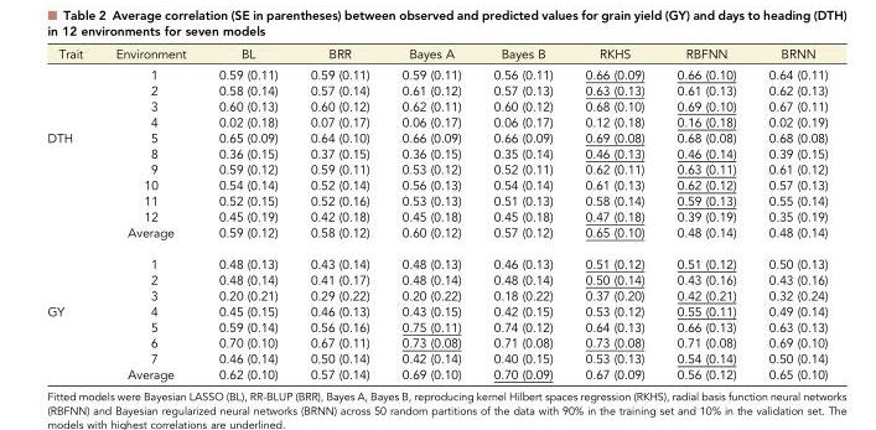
<table><thead><tr><td>Trait</td><td>Environment</td><td>BL</td><td>BRR</td><td>Bayes A</td><td>Bayes B</td><td>RKHS</td><td>RBFNN</td><td>BRNN</td></tr></thead><tbody><tr><td></td><td>1</td><td>0.59 (0.11)</td><td>0.59 (0.11)</td><td>0.59 (0.11)</td><td>0.56 (0.11)</td><td>0.66 (0.09)</td><td>0.66 (0.10)</td><td>0.64 (0.11)</td></tr><tr><td></td><td>2</td><td>0.58 (0.14)</td><td>0.57 (0.14)</td><td>0.61 (0.12)</td><td>0.57 (0.13)</td><td>0.63 (0.13)</td><td>0.61 (0.13)</td><td>0.62 (0.13)</td></tr><tr><td></td><td>3</td><td>0.60 (0.13)</td><td>0.60 (0.12)</td><td>0.62 (0.11)</td><td>0.60 (0.12)</td><td>0.68 (0.10)</td><td>0.69 (0.10)</td><td>0.67 (0.11)</td></tr><tr><td></td><td>4</td><td>0.02 (0.18)</td><td>0.07 (0.17)</td><td>0.06 (0.17)</td><td>0.06 (0.17)</td><td>0.12 (0.18)</td><td>0.16 (0.18)</td><td>0.02 (0.19)</td></tr><tr><td rowspan="10">DTH</td><td>5</td><td>0.65 (0.09)</td><td>0.64 (0.10)</td><td>0.66 (0.09)</td><td>0.66 (0.09)</td><td>0.69 (0.08)</td><td>0.68 (0.08)</td><td>0.68 (0.08)</td></tr><tr><td>8</td><td>0.36 (0.15)</td><td>0.37 (0.15)</td><td>0.36 (0.15)</td><td>0.35 (0.14)</td><td>0.46 (0.13)</td><td>0.46 (0.14)</td><td>0.39 (0.15)</td></tr><tr><td>9</td><td>0.59 (0.12)</td><td>0.59 (0.11)</td><td>0.53 (0.12)</td><td>0.52 (0.11)</td><td>0.62 (0.11)</td><td>0.63 (0.11)</td><td>0.61 (0.12)</td></tr><tr><td>10</td><td>0.54 (0.14)</td><td>0.52 (0.14)</td><td>0.56 (0.13)</td><td>0.54 (0.14)</td><td>0.61 (0.13)</td><td>0.62 (0.12)</td><td>0.57 (0.13)</td></tr><tr><td>11</td><td>0.52 (0.15)</td><td>0.52 (0.16)</td><td>0.53 (0.13)</td><td>0.51 (0.13)</td><td>0.58 (0.14)</td><td>0.59 (0.13)</td><td>0.55 (0.14)</td></tr><tr><td>12</td><td>0.45 (0.19)</td><td>0.42 (0.18)</td><td>0.45 (0.18)</td><td>0.45 (0.18)</td><td>0.47 (0.18)</td><td>0.39 (0.19)</td><td>0.35 (0.19)</td></tr><tr><td>Average</td><td>0.59 (0.12)</td><td>0.58 (0.12)</td><td>0.60 (0.12)</td><td>0.57 (0.12)</td><td>0.65 (0.10)</td><td>0.48 (0.14)</td><td>0.48 (0.14)</td></tr><tr><td>1</td><td>0.48 (0.13)</td><td>0.43 (0.14)</td><td>0.48 (0.13)</td><td>0.46 (0.13)</td><td>0.51 (0.12)</td><td>0.51 (0.12)</td><td>0.50 (0.13)</td></tr><tr><td>2</td><td>0.48 (0.14)</td><td>0.41 (0.17)</td><td>0.48 (0.14)</td><td>0.48 (0.14)</td><td>0.50 (0.14)</td><td>0.43 (0.16)</td><td>0.43 (0.16)</td></tr><tr><td>3</td><td>0.20 (0.21)</td><td>0.29 (0.22)</td><td>0.20 (0.22)</td><td>0.18 (0.22)</td><td>0.37 (0.20)</td><td>0.42 (0.21)</td><td>0.32 (0.24)</td></tr><tr><td rowspan="5">GY</td><td>4</td><td>0.45 (0.15)</td><td>0.46 (0.13)</td><td>0.43 (0.15)</td><td>0.42 (0.15)</td><td>0.53 (0.12)</td><td>0.55 (0.11)</td><td>0.49 (0.14)</td></tr><tr><td>5</td><td>0.59 (0.14)</td><td>0.56 (0.16)</td><td>0.75 (0.11)</td><td>0.74 (0.12)</td><td>0.64 (0.13)</td><td>0.66 (0.13)</td><td>0.63 (0.13)</td></tr><tr><td>6</td><td>0.70 (0.10)</td><td>0.67 (0.11)</td><td>0.73 (0.08)</td><td>0.71 (0.08)</td><td>0.73 (0.08)</td><td>0.71 (0.08)</td><td>0.69 (0.10)</td></tr><tr><td>7</td><td>0.46 (0.14)</td><td>0.50 (0.14)</td><td>0.42 (0.14)</td><td>0.40 (0.15)</td><td>0.53 (0.13)</td><td>0.54 (0.14)</td><td>0.50 (0.14)</td></tr><tr><td>Average</td><td>0.62 (0.10)</td><td>0.57 (0.14)</td><td>0.69 (0.10)</td><td>0.70 (0.09)</td><td>0.67 (0.09)</td><td>0.56 (0.12)</td><td>0.65 (0.10)</td></tr></tbody></table>